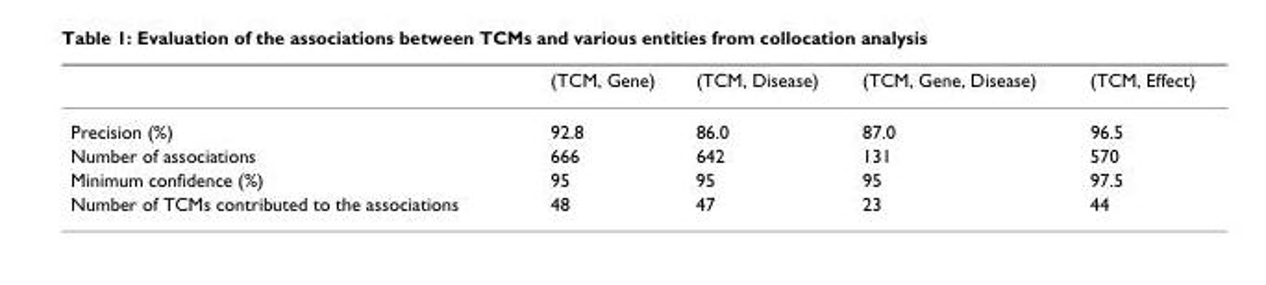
<table><thead><tr><td></td><td>(TCM, Gene)</td><td>(TCM, Disease)</td><td>(TCM, Gene, Disease)</td><td>(TCM, Effect)</td></tr></thead><tbody><tr><td>Precision (%)</td><td>92.8</td><td>86.0</td><td>87.0</td><td>96.5</td></tr><tr><td>Number of associations</td><td>666</td><td>642</td><td>131</td><td>570</td></tr><tr><td>Minimum confidence (%)</td><td>95</td><td>95</td><td>95</td><td>97.5</td></tr><tr><td>Number of TCMs contributed to the associations</td><td>48</td><td>47</td><td>23</td><td>44</td></tr></tbody></table>